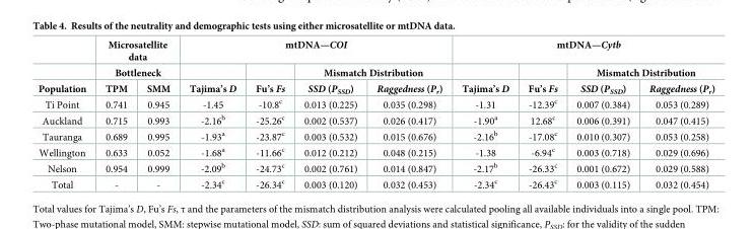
<table><thead><tr><td rowspan="3">Population</td><td rowspan="2" colspan="2">Microsatellite data Bottleneck</td><td colspan="4">mtDNA—COI</td><td colspan="4">mtDNA—Cytb</td></tr><tr><td rowspan="2">Tajima’s D</td><td rowspan="2">Fu’s Fs</td><td colspan="2">Mismatch Distribution</td><td rowspan="2">Tajima’s D</td><td rowspan="2">Fu’s Fs</td><td colspan="2">Mismatch Distribution</td></tr><tr><td>TPM</td><td>SMM</td><td>SSD (P<sub>SSD</sub>)</td><td>Raggedness (P<sub>r</sub>)</td><td>SSD (P<sub>SSD</sub>)</td><td>Raggedness (P<sub>r</sub>)</td></tr></thead><tbody><tr><td>Ti Point</td><td>0.741</td><td>0.945</td><td>-1.45</td><td>-10.8<sup>c</sup></td><td>0.013 (0.225)</td><td>0.035 (0.298)</td><td>-1.31</td><td>-12.39<sup>c</sup></td><td>0.007 (0.384)</td><td>0.053 (0.289)</td></tr><tr><td>Auckland</td><td>0.715</td><td>0.993</td><td>-2.16<sup>b</sup></td><td>-25.26<sup>c</sup></td><td>0.002 (0.537)</td><td>0.026 (0.417)</td><td>-1.90<sup>a</sup></td><td>12.68<sup>c</sup></td><td>0.006 (0.391)</td><td>0.047 (0.415)</td></tr><tr><td>Tauranga</td><td>0.689</td><td>0.995</td><td>-1.93<sup>a</sup></td><td>-23.87<sup>c</sup></td><td>0.003 (0.532)</td><td>0.015 (0.676)</td><td>-2.16<sup>b</sup></td><td>-17.08<sup>c</sup></td><td>0.010 (0.307)</td><td>0.053 (0.258)</td></tr><tr><td>Wellington</td><td>0.633</td><td>0.052</td><td>-1.68<sup>a</sup></td><td>-11.66<sup>c</sup></td><td>0.012 (0.212)</td><td>0.048 (0.215)</td><td>-1.38</td><td>-6.94<sup>c</sup></td><td>0.003 (0.718)</td><td>0.029 (0.696)</td></tr><tr><td>Nelson</td><td>0.954</td><td>0.999</td><td>-2.09<sup>b</sup></td><td>-24.73<sup>c</sup></td><td>0.002 (0.761)</td><td>0.014 (0.847)</td><td>-2.17<sup>b</sup></td><td>-26.33<sup>c</sup></td><td>0.001 (0.672)</td><td>0.029 (0.588)</td></tr><tr><td>Total</td><td>-</td><td>-</td><td>-2.34<sup>c</sup></td><td>-26.34<sup>c</sup></td><td>0.003 (0.120)</td><td>0.032 (0.453)</td><td>-2.34<sup>c</sup></td><td>-26.43<sup>c</sup></td><td>0.003 (0.115)</td><td>0.032 (0.454)</td></tr></tbody></table>